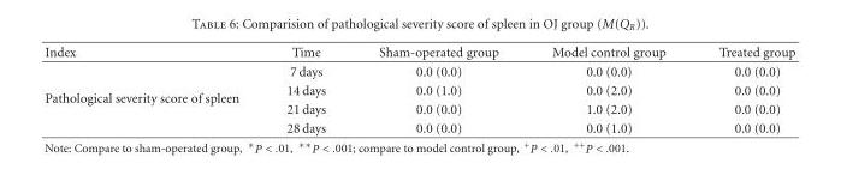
<table><thead><tr><td>Index</td><td>Time</td><td>Sham-operated group</td><td>Model control group</td><td>Treated group</td></tr></thead><tbody><tr><td rowspan="4">Pathological severity score of spleen</td><td>7 days</td><td>0.0 (0.0)</td><td>0.0 (0.0)</td><td>0.0 (0.0)</td></tr><tr><td>14 days</td><td>0.0 (1.0)</td><td>0.0 (2.0)</td><td>0.0 (0.0)</td></tr><tr><td>21 days</td><td>0.0 (0.0)</td><td>1.0 (2.0)</td><td>0.0 (0.0)</td></tr><tr><td>28 days</td><td>0.0 (0.0)</td><td>0.0 (1.0)</td><td>0.0 (0.0)</td></tr></tbody></table>